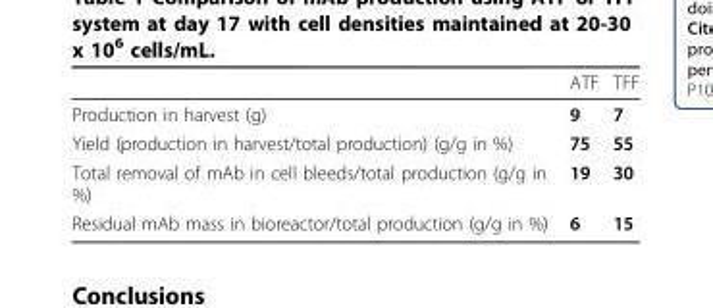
<table><thead><tr><td></td><td>ATF</td><td>TFF</td></tr></thead><tbody><tr><td>Production in harvest (g)</td><td>9</td><td>7</td></tr><tr><td>Yield (production in harvest/total production) (g/g in %)</td><td>75</td><td>55</td></tr><tr><td>Total removal of mAb in cell bleeds/total production (g/g in %)</td><td>19</td><td>30</td></tr><tr><td>Residual mAb mass in bioreactor/total production (g/g in %)</td><td>6</td><td>15</td></tr></tbody></table>